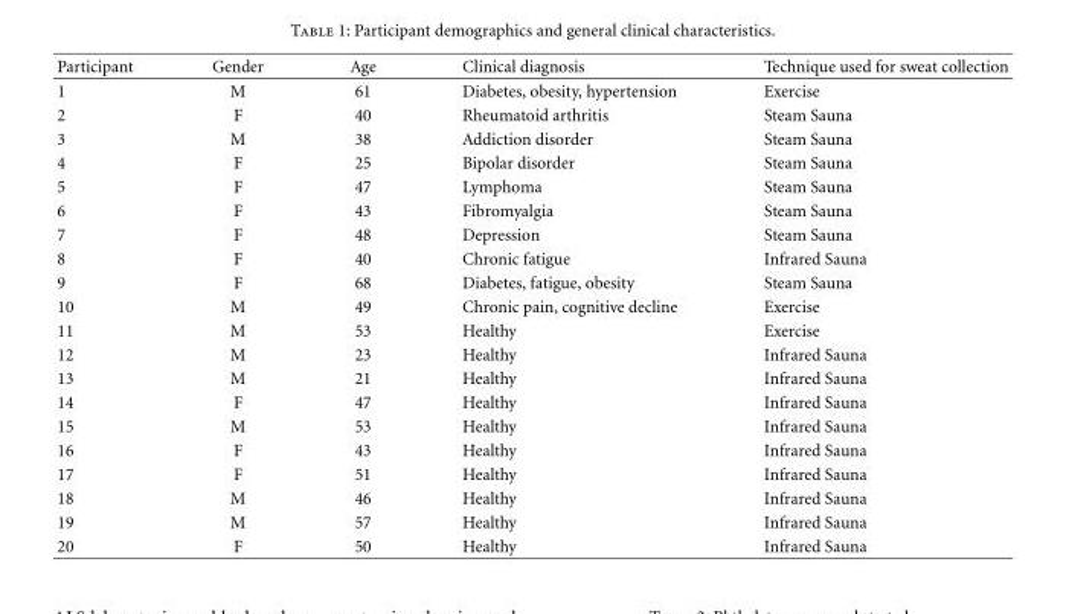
<table><thead><tr><td>Participant</td><td>Gender</td><td>Age</td><td>Clinical diagnosis</td><td>Technique used for sweat collection</td></tr></thead><tbody><tr><td>1</td><td>M</td><td>61</td><td>Diabetes, obesity, hypertension</td><td>Exercise</td></tr><tr><td>2</td><td>F</td><td>40</td><td>Rheumatoid arthritis</td><td>Steam Sauna</td></tr><tr><td>3</td><td>M</td><td>38</td><td>Addiction disorder</td><td>Steam Sauna</td></tr><tr><td>4</td><td>F</td><td>25</td><td>Bipolar disorder</td><td>Steam Sauna</td></tr><tr><td>5</td><td>F</td><td>47</td><td>Lymphoma</td><td>Steam Sauna</td></tr><tr><td>6</td><td>F</td><td>43</td><td>Fibromyalgia</td><td>Steam Sauna</td></tr><tr><td>7</td><td>F</td><td>48</td><td>Depression</td><td>Steam Sauna</td></tr><tr><td>8</td><td>F</td><td>40</td><td>Chronic fatigue</td><td>Infrared Sauna</td></tr><tr><td>9</td><td>F</td><td>68</td><td>Diabetes, fatigue, obesity</td><td>Steam Sauna</td></tr><tr><td>10</td><td>M</td><td>49</td><td>Chronic pain, cognitive decline</td><td>Exercise</td></tr><tr><td>11</td><td>M</td><td>53</td><td>Healthy</td><td>Exercise</td></tr><tr><td>12</td><td>M</td><td>23</td><td>Healthy</td><td>Infrared Sauna</td></tr><tr><td>13</td><td>M</td><td>21</td><td>Healthy</td><td>Infrared Sauna</td></tr><tr><td>14</td><td>F</td><td>47</td><td>Healthy</td><td>Infrared Sauna</td></tr><tr><td>15</td><td>M</td><td>53</td><td>Healthy</td><td>Infrared Sauna</td></tr><tr><td>16</td><td>F</td><td>43</td><td>Healthy</td><td>Infrared Sauna</td></tr><tr><td>17</td><td>F</td><td>51</td><td>Healthy</td><td>Infrared Sauna</td></tr><tr><td>18</td><td>M</td><td>46</td><td>Healthy</td><td>Infrared Sauna</td></tr><tr><td>19</td><td>M</td><td>57</td><td>Healthy</td><td>Infrared Sauna</td></tr><tr><td>20</td><td>F</td><td>50</td><td>Healthy</td><td>Infrared Sauna</td></tr></tbody></table>